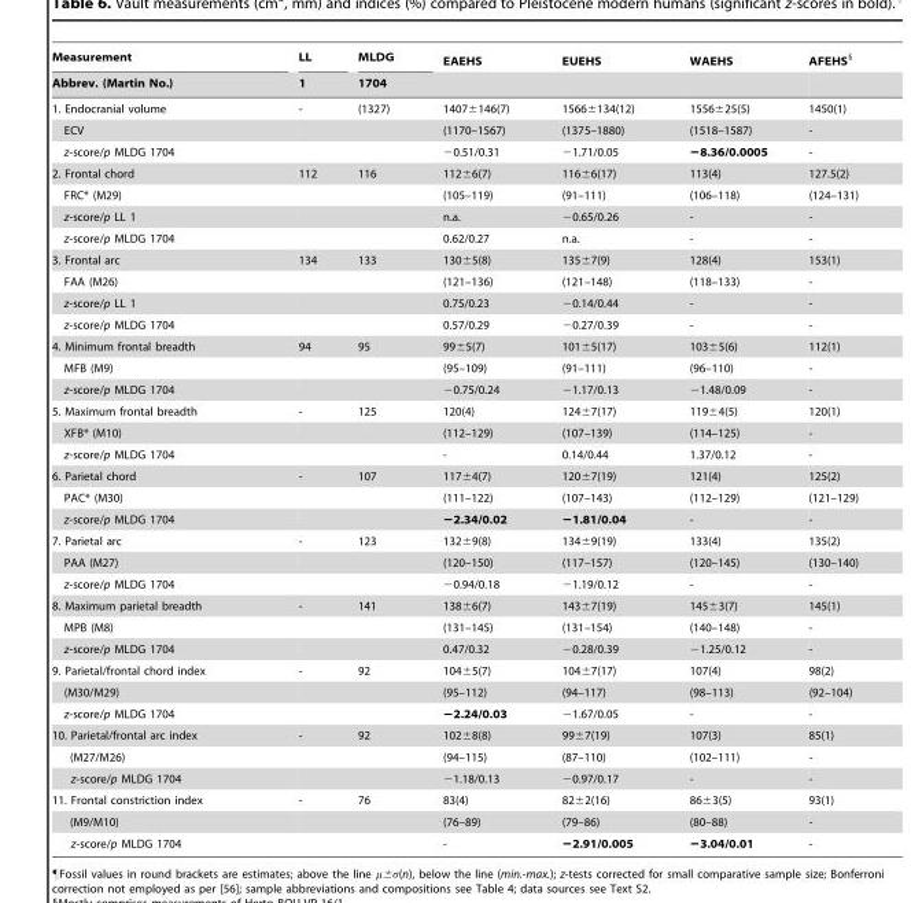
<table><thead><tr><td rowspan="2">Measurement Abbrev. (Martin No.)</td><td rowspan="2">LL 1</td><td rowspan="2">MLDG 1704</td><td rowspan="2">EAEHS</td><td rowspan="2">EUEHS</td><td rowspan="2">WAEHS</td><td rowspan="2">AFEHS§</td></tr><tr></tr></thead><tbody><tr><td>1. Endocranial volume</td><td>-</td><td>(1327)</td><td>1407±146(7)</td><td>1566±134(12)</td><td>1556±25(5)</td><td>1450(1)</td></tr><tr><td>ECV</td><td></td><td></td><td>(1170–1567)</td><td>(1375–1880)</td><td>(1518–1587)</td><td>-</td></tr><tr><td>z-score/p MLDG 1704</td><td></td><td></td><td>−0.51/0.31</td><td>−1.71/0.05</td><td>−8.36/0.0005</td><td>-</td></tr><tr><td>2. Frontal chord</td><td>112</td><td>116</td><td>112±6(7)</td><td>116±6(17)</td><td>113(4)</td><td>127.5(2)</td></tr><tr><td>FRC* (M29)</td><td></td><td></td><td>(105–119)</td><td>(91–111)</td><td>(106–118)</td><td>(124–131)</td></tr><tr><td>z-score/p LL 1</td><td></td><td></td><td>n.a.</td><td>−0.65/0.26</td><td>-</td><td>-</td></tr><tr><td>z-score/p MLDG 1704</td><td></td><td></td><td>0.62/0.27</td><td>n.a.</td><td>-</td><td>-</td></tr><tr><td>3. Frontal arc</td><td>134</td><td>133</td><td>130±5(8)</td><td>135±7(9)</td><td>128(4)</td><td>153(1)</td></tr><tr><td>FAA (M26)</td><td></td><td></td><td>(121–136)</td><td>(121–148)</td><td>(118–133)</td><td>-</td></tr><tr><td>z-score/p LL 1</td><td></td><td></td><td>0.75/0.23</td><td>−0.14/0.44</td><td>-</td><td>-</td></tr><tr><td>z-score/p MLDG 1704</td><td></td><td></td><td>0.57/0.29</td><td>−0.27/0.39</td><td>-</td><td>-</td></tr><tr><td>4. Minimum frontal breadth</td><td>94</td><td>95</td><td>99±5(7)</td><td>101±5(17)</td><td>103±5(6)</td><td>112(1)</td></tr><tr><td>MFB (M9)</td><td></td><td></td><td>(95–109)</td><td>(91–111)</td><td>(96–110)</td><td>-</td></tr><tr><td>z-score/p MLDG 1704</td><td></td><td></td><td>−0.75/0.24</td><td>−1.17/0.13</td><td>−1.48/0.09</td><td>-</td></tr><tr><td>5. Maximum frontal breadth</td><td>-</td><td>125</td><td>120(4)</td><td>124±7(17)</td><td>119±4(5)</td><td>120(1)</td></tr><tr><td>XFB* (M10)</td><td></td><td></td><td>(112–129)</td><td>(107–139)</td><td>(114–125)</td><td>-</td></tr><tr><td>z-score/p MLDG 1704</td><td></td><td></td><td>-</td><td>0.14/0.44</td><td>1.37/0.12</td><td>-</td></tr><tr><td>6. Parietal chord</td><td>-</td><td>107</td><td>117±4(7)</td><td>120±7(19)</td><td>121(4)</td><td>125(2)</td></tr><tr><td>PAC* (M30)</td><td></td><td></td><td>(111–122)</td><td>(107–143)</td><td>(112–129)</td><td>(121–129)</td></tr><tr><td>z-score/p MLDG 1704</td><td></td><td></td><td>−2.34/0.02</td><td>−1.81/0.04</td><td>-</td><td>-</td></tr><tr><td>7. Parietal arc</td><td>-</td><td>123</td><td>132±9(8)</td><td>134±9(19)</td><td>133(4)</td><td>135(2)</td></tr><tr><td>PAA (M27)</td><td></td><td></td><td>(120–150)</td><td>(117–157)</td><td>(120–145)</td><td>(130–140)</td></tr><tr><td>z-score/p MLDG 1704</td><td></td><td></td><td>−0.94/0.18</td><td>−1.19/0.12</td><td>-</td><td>-</td></tr><tr><td>8. Maximum parietal breadth</td><td>-</td><td>141</td><td>138±6(7)</td><td>143±7(19)</td><td>145±3(7)</td><td>145(1)</td></tr><tr><td>MPB (M8)</td><td></td><td></td><td>(131–145)</td><td>(131–154)</td><td>(140–148)</td><td>-</td></tr><tr><td>z-score/p MLDG 1704</td><td></td><td></td><td>0.47/0.32</td><td>−0.28/0.39</td><td>−1.25/0.12</td><td>-</td></tr><tr><td>9. Parietal/frontal chord index</td><td>-</td><td>92</td><td>104±5(7)</td><td>104±7(17)</td><td>107(4)</td><td>98(2)</td></tr><tr><td>(M30/M29)</td><td></td><td></td><td>(95–112)</td><td>(94–117)</td><td>(98–113)</td><td>(92–104)</td></tr><tr><td>z-score/p MLDG 1704</td><td></td><td></td><td>−2.24/0.03</td><td>−1.67/0.05</td><td>-</td><td>-</td></tr><tr><td>10. Parietal/frontal arc index</td><td>-</td><td>92</td><td>102±8(8)</td><td>99±7(19)</td><td>107(3)</td><td>85(1)</td></tr><tr><td>(M27/M26)</td><td></td><td></td><td>(94–115)</td><td>(87–110)</td><td>(102–111)</td><td>-</td></tr><tr><td>z-score/p MLDG 1704</td><td></td><td></td><td>−1.18/0.13</td><td>−0.97/0.17</td><td>-</td><td>-</td></tr><tr><td>11. Frontal constriction index</td><td>-</td><td>76</td><td>83(4)</td><td>82±2(16)</td><td>86±3(5)</td><td>93(1)</td></tr><tr><td>(M9/M10)</td><td></td><td></td><td>(76–89)</td><td>(79–86)</td><td>(80–88)</td><td>-</td></tr><tr><td>z-score/p MLDG 1704</td><td></td><td></td><td>-</td><td>−2.91/0.005</td><td>−3.04/0.01</td><td>-</td></tr></tbody></table>